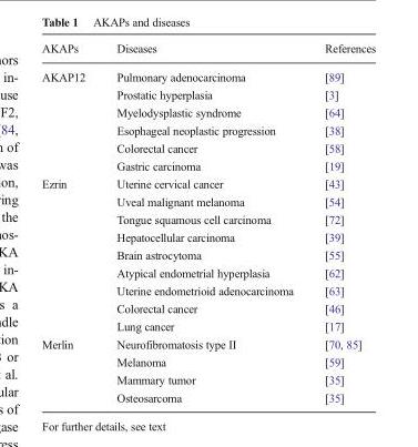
<table><thead><tr><td>AKAPs</td><td>Diseases</td><td>References</td></tr></thead><tbody><tr><td rowspan="6">AKAP12</td><td>Pulmonary adenocarcinoma</td><td>[89]</td></tr><tr><td>Prostatic hyperplasia</td><td>[3]</td></tr><tr><td>Myelodysplastic syndrome</td><td>[64]</td></tr><tr><td>Esophageal neoplastic progression</td><td>[38]</td></tr><tr><td>Colorectal cancer</td><td>[58]</td></tr><tr><td>Gastric carcinoma</td><td>[19]</td></tr><tr><td rowspan="9">Ezrin</td><td>Uterine cervical cancer</td><td>[43]</td></tr><tr><td>Uveal malignant melanoma</td><td>[54]</td></tr><tr><td>Tongue squamous cell carcinoma</td><td>[72]</td></tr><tr><td>Hepatocellular carcinoma</td><td>[39]</td></tr><tr><td>Brain astrocytoma</td><td>[55]</td></tr><tr><td>Atypical endometrial hyperplasia</td><td>[62]</td></tr><tr><td>Uterine endometrioid adenocarcinoma</td><td>[63]</td></tr><tr><td>Colorectal cancer</td><td>[46]</td></tr><tr><td>Lung cancer</td><td>[17]</td></tr><tr><td rowspan="4">Merlin</td><td>Neurofibromatosis type II</td><td>[70, 85]</td></tr><tr><td>Melanoma</td><td>[59]</td></tr><tr><td>Mammary tumor</td><td>[35]</td></tr><tr><td>Osteosarcoma</td><td>[35]</td></tr></tbody></table>